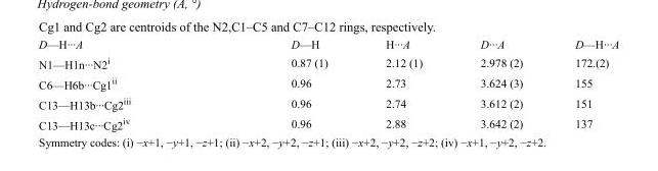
<table><tbody><tr><td>D—H···A</td><td>D—H</td><td>H···A</td><td>D···A</td><td>D—H···A</td></tr><tr><td>N1—H1n···N2<sup>i</sup></td><td>0.87 (1)</td><td>2.12 (1)</td><td>2.978 (2)</td><td>172.(2)</td></tr><tr><td>C6—H6b···Cg1<sup>ii</sup></td><td>0.96</td><td>2.73</td><td>3.624 (3)</td><td>155</td></tr><tr><td>C13—H13b···Cg2<sup>iii</sup></td><td>0.96</td><td>2.74</td><td>3.612 (2)</td><td>151</td></tr><tr><td>C13—H13c···Cg2<sup>iv</sup></td><td>0.96</td><td>2.88</td><td>3.642 (2)</td><td>137</td></tr></tbody></table>